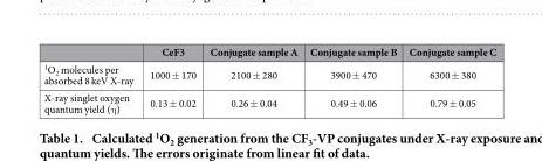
<table><thead><tr><td></td><td>CeF3</td><td>Conjugate sample A</td><td>Conjugate sample B</td><td>Conjugate sample C</td></tr></thead><tbody><tr><td><sup>1</sup>O<sub>2</sub> molecules per absorbed 8 keV X-ray</td><td>1000 ± 170</td><td>2100 ± 280</td><td>3900 ± 470</td><td>6300 ± 380</td></tr><tr><td>X-ray singlet oxygen quantum yield (η )</td><td>0.13 ± 0.02</td><td>0.26 ± 0.04</td><td>0.49 ± 0.06</td><td>0.79 ± 0.05</td></tr></tbody></table>